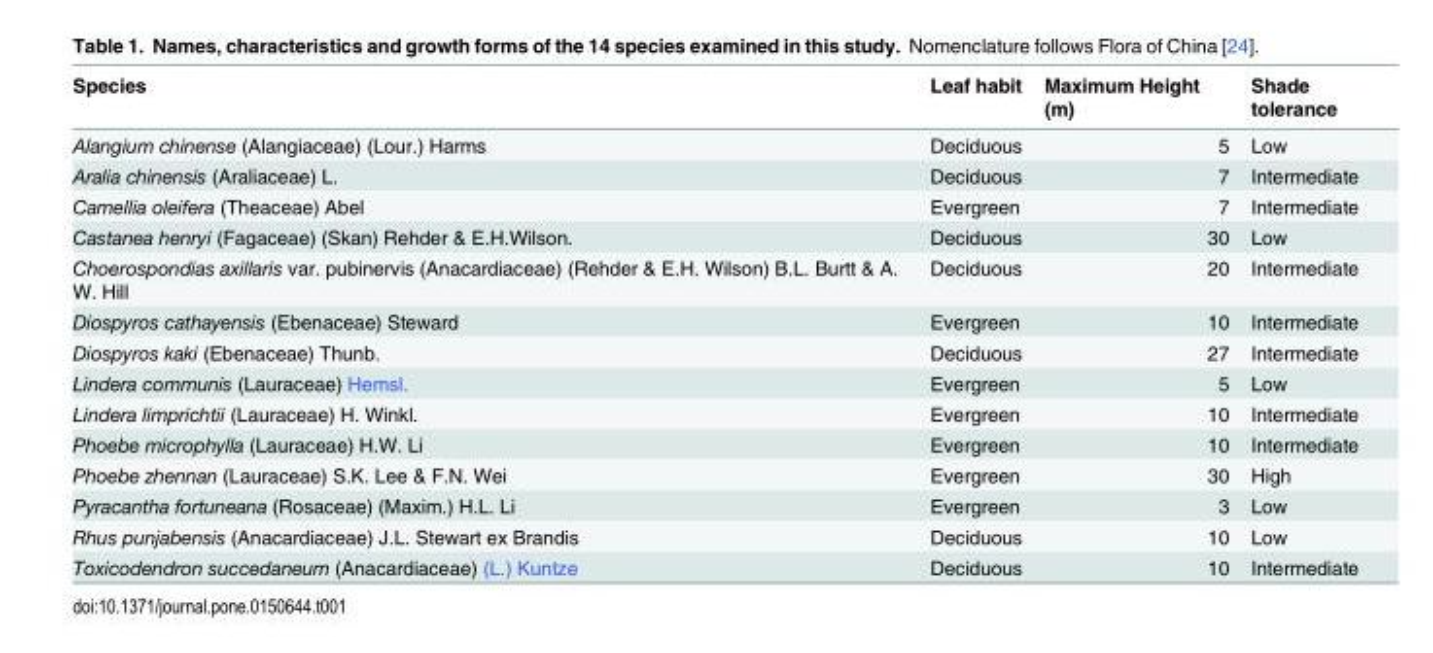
<table><thead><tr><td>Species</td><td>Leaf habit</td><td>Maximum Height (m)</td><td>Shade tolerance</td></tr></thead><tbody><tr><td>Alangium chinense (Alangiaceae) (Lour.) Harms</td><td>Deciduous</td><td>5</td><td>Low</td></tr><tr><td>Aralia chinensis (Araliaceae) L.</td><td>Deciduous</td><td>7</td><td>Intermediate</td></tr><tr><td>Camellia oleifera (Theaceae) Abel</td><td>Evergreen</td><td>7</td><td>Intermediate</td></tr><tr><td>Castanea henryi (Fagaceae) (Skan) Rehder &amp; E.H.Wilson.</td><td>Deciduous</td><td>30</td><td>Low</td></tr><tr><td>Choerospondias axillaris var. pubinervis (Anacardiaceae) (Rehder &amp; E.H. Wilson) B.L. Burtt &amp; A. W. Hill</td><td>Deciduous</td><td>20</td><td>Intermediate</td></tr><tr><td>Diospyros cathayensis (Ebenaceae) Steward</td><td>Evergreen</td><td>10</td><td>Intermediate</td></tr><tr><td>Diospyros kaki (Ebenaceae) Thunb.</td><td>Deciduous</td><td>27</td><td>Intermediate</td></tr><tr><td>Lindera communis (Lauraceae) Hemsl.</td><td>Evergreen</td><td>5</td><td>Low</td></tr><tr><td>Lindera limprichtii (Lauraceae) H. Winkl.</td><td>Evergreen</td><td>10</td><td>Intermediate</td></tr><tr><td>Phoebe microphylla (Lauraceae) H.W. Li</td><td>Evergreen</td><td>10</td><td>Intermediate</td></tr><tr><td>Phoebe zhennan (Lauraceae) S.K. Lee &amp; F.N. Wei</td><td>Evergreen</td><td>30</td><td>High</td></tr><tr><td>Pyracantha fortuneana (Rosaceae) (Maxim.) H.L. Li</td><td>Evergreen</td><td>3</td><td>Low</td></tr><tr><td>Rhus punjabensis (Anacardiaceae) J.L. Stewart ex Brandis</td><td>Deciduous</td><td>10</td><td>Low</td></tr><tr><td>Toxicodendron succedaneum (Anacardiaceae) (L.) Kuntze</td><td>Deciduous</td><td>10</td><td>Intermediate</td></tr></tbody></table>